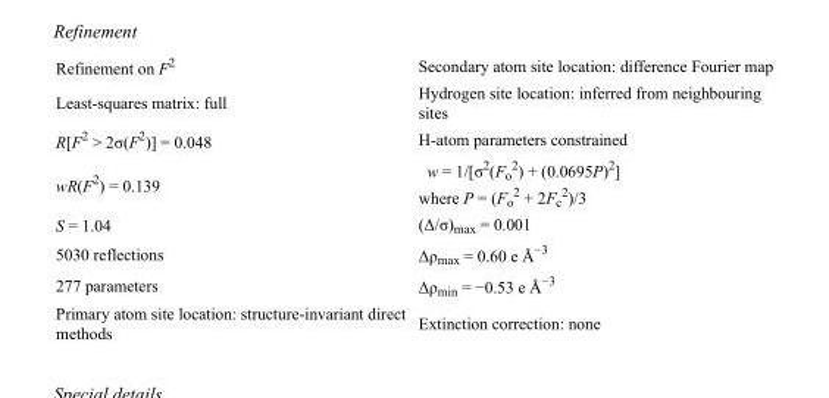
<table><tbody><tr><td>Refinement on F<sup>2</sup></td><td>Secondary atom site location: difference Fourier map</td></tr><tr><td>Least-squares matrix: full</td><td>Hydrogen site location: inferred from neighbouring sites</td></tr><tr><td>R[F<sup>2</sup> &gt; 2σ(F<sup>2</sup>)] = 0.048</td><td>H-atom parameters constrained</td></tr><tr><td>wR(F<sup>2</sup>) = 0.139</td><td>w = 1/[σ<sup>2</sup>(F<sub>o</sub> <sup>2</sup>) + (0.0695P)<sup>2</sup>] where P = (F<sub>o</sub> <sup>2</sup> + 2F<sub>c</sub> <sup>2</sup>)/3</td></tr><tr><td>S = 1.04</td><td>(Δ/σ)<sub>max</sub> = 0.001</td></tr><tr><td>5030 reflections</td><td>Δρ<sub>max</sub> = 0.60 e Å<sup>−3</sup></td></tr><tr><td>277 parameters</td><td>Δρ<sub>min</sub> = −0.53 e Å<sup>−3</sup></td></tr><tr><td>Primary atom site location: structure-invariant direct methods</td><td>Extinction correction: none</td></tr></tbody></table>